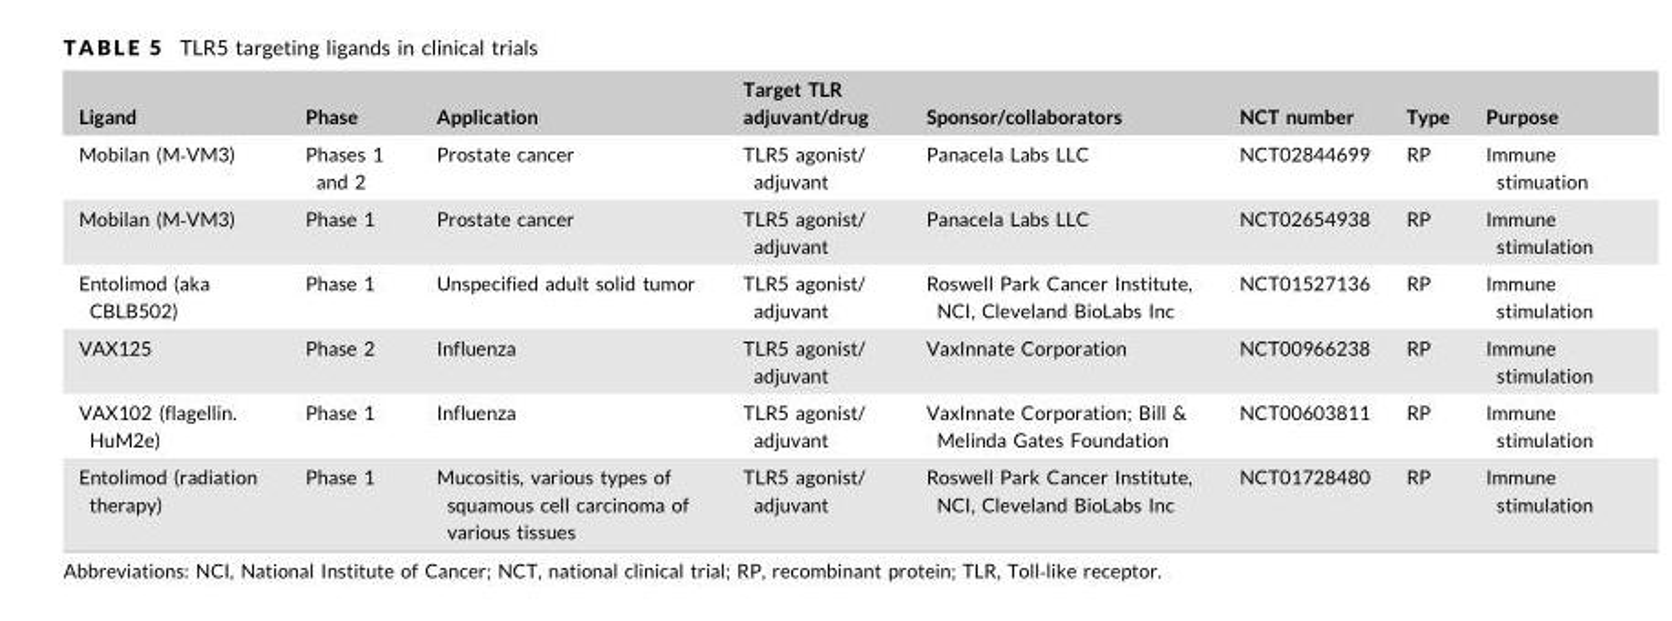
<table><thead><tr><td>Ligand</td><td>Phase</td><td>Application</td><td>Target TLR adjuvant/drug</td><td>Sponsor/collaborators</td><td>NCT number</td><td>Type</td><td>Purpose</td></tr></thead><tbody><tr><td>Mobilan (M‐VM3)</td><td>Phases 1 and 2</td><td>Prostate cancer</td><td>TLR5 agonist/ adjuvant</td><td>Panacela Labs LLC</td><td>NCT02844699</td><td>RP</td><td>Immune stimuation</td></tr><tr><td>Mobilan (M‐VM3)</td><td>Phase 1</td><td>Prostate cancer</td><td>TLR5 agonist/ adjuvant</td><td>Panacela Labs LLC</td><td>NCT02654938</td><td>RP</td><td>Immune stimulation</td></tr><tr><td>Entolimod (aka CBLB502)</td><td>Phase 1</td><td>Unspecified adult solid tumor</td><td>TLR5 agonist/ adjuvant</td><td>Roswell Park Cancer Institute, NCI, Cleveland BioLabs Inc</td><td>NCT01527136</td><td>RP</td><td>Immune stimulation</td></tr><tr><td>VAX125</td><td>Phase 2</td><td>Influenza</td><td>TLR5 agonist/ adjuvant</td><td>VaxInnate Corporation</td><td>NCT00966238</td><td>RP</td><td>Immune stimulation</td></tr><tr><td>VAX102 (flagellin. HuM2e)</td><td>Phase 1</td><td>Influenza</td><td>TLR5 agonist/ adjuvant</td><td>VaxInnate Corporation; Bill &amp; Melinda Gates Foundation</td><td>NCT00603811</td><td>RP</td><td>Immune stimulation</td></tr><tr><td>Entolimod (radiation therapy)</td><td>Phase 1</td><td>Mucositis, various types of squamous cell carcinoma of various tissues</td><td>TLR5 agonist/ adjuvant</td><td>Roswell Park Cancer Institute, NCI, Cleveland BioLabs Inc</td><td>NCT01728480</td><td>RP</td><td>Immune stimulation</td></tr></tbody></table>